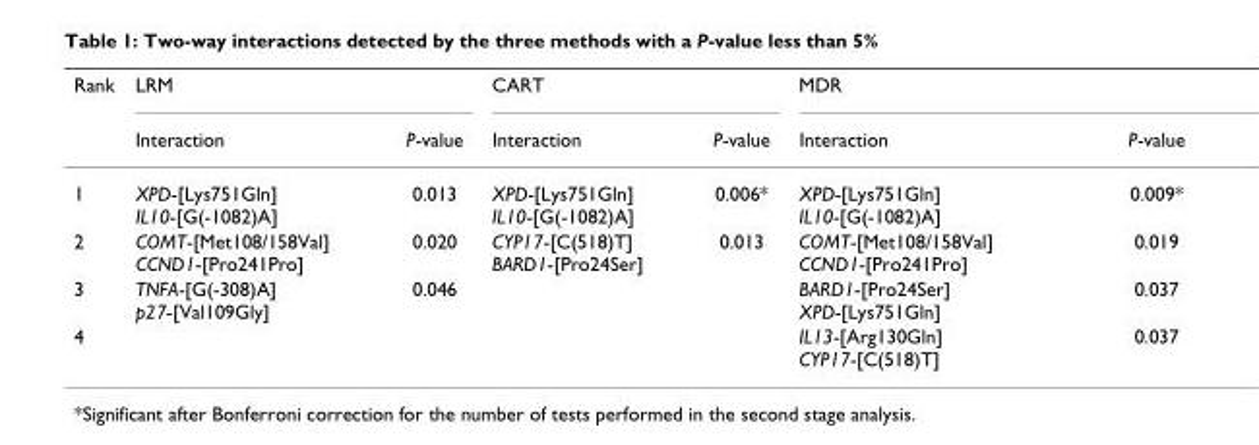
<table><thead><tr><td rowspan="2">Rank</td><td colspan="2">LRM</td><td colspan="2">CART</td><td colspan="2">MDR</td></tr><tr><td>Interaction</td><td>P-value</td><td>Interaction</td><td>P-value</td><td>Interaction</td><td>P-value</td></tr></thead><tbody><tr><td>1</td><td>XPD-[Lys751Gln] IL10-[G(-1082)A]</td><td>0.013</td><td>XPD-[Lys751Gln] IL10-[G(-1082)A]</td><td>0.006*</td><td>XPD-[Lys751Gln] IL10-[G(-1082)A]</td><td>0.009*</td></tr><tr><td>2</td><td>COMT-[Met108/158Val] CCND1-[Pro241Pro]</td><td>0.020</td><td>CYP17-[C(518)T] BARD1-[Pro24Ser]</td><td>0.013</td><td>COMT-[Met108/158Val] CCND1-[Pro241Pro]</td><td>0.019</td></tr><tr><td>3</td><td>TNFA-[G(-308)A] p27-[Val109Gly]</td><td>0.046</td><td></td><td></td><td>BARD1-[Pro24Ser] XPD-[Lys751Gln]</td><td>0.037</td></tr><tr><td>4</td><td></td><td></td><td></td><td></td><td>IL13-[Arg130Gln] CYP17-[C(518)T]</td><td>0.037</td></tr></tbody></table>